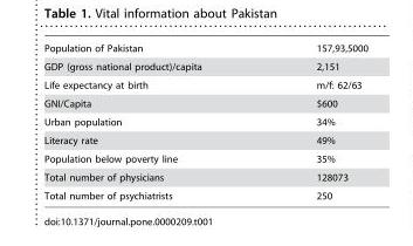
<table><tbody><tr><td>Population of Pakistan</td><td>157,93,5000</td></tr><tr><td>GDP (gross national product)/capita</td><td>2,151</td></tr><tr><td>Life expectancy at birth</td><td>m/f: 62/63</td></tr><tr><td>GNI/Capita</td><td>$600</td></tr><tr><td>Urban population</td><td>34%</td></tr><tr><td>Literacy rate</td><td>49%</td></tr><tr><td>Population below poverty line</td><td>35%</td></tr><tr><td>Total number of physicians</td><td>128073</td></tr><tr><td>Total number of psychiatrists</td><td>250</td></tr></tbody></table>